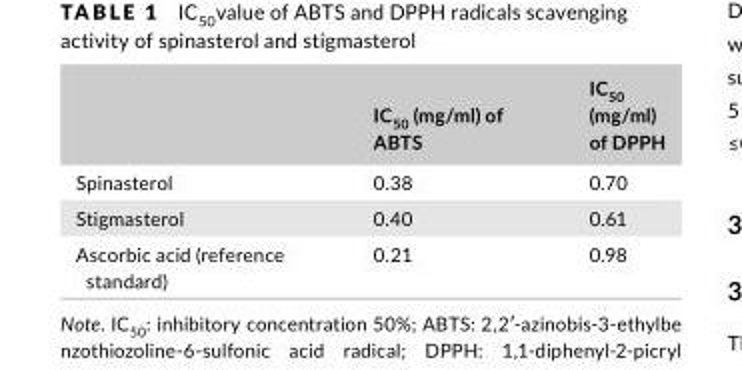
<table><thead><tr><td></td><td>IC<sub>50</sub> (mg/ml) of ABTS</td><td>IC<sub>50</sub> (mg/ml) of DPPH</td></tr></thead><tbody><tr><td>Spinasterol</td><td>0.38</td><td>0.70</td></tr><tr><td>Stigmasterol</td><td>0.40</td><td>0.61</td></tr><tr><td>Ascorbic acid (reference standard)</td><td>0.21</td><td>0.98</td></tr></tbody></table>